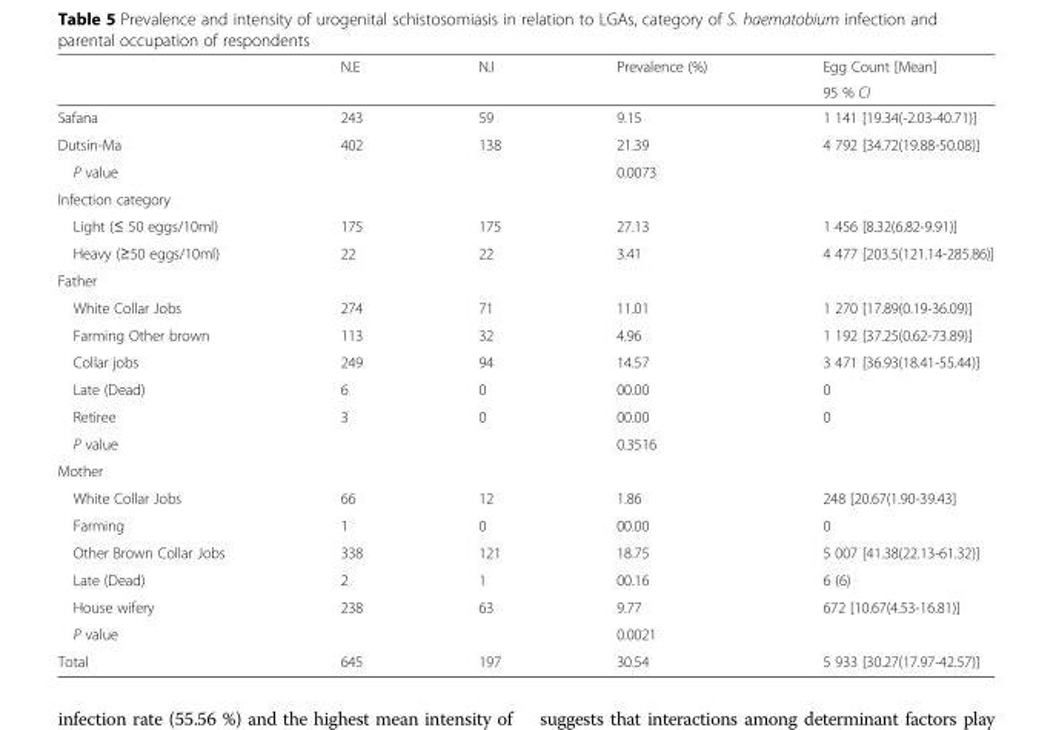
<table><thead><tr><td rowspan="2"></td><td rowspan="2">N.E</td><td rowspan="2">N.I</td><td rowspan="2">Prevalence (%)</td><td rowspan="2">Egg Count [Mean] 95 % CI</td></tr><tr></tr></thead><tbody><tr><td>Safana</td><td>243</td><td>59</td><td>9.15</td><td>1 141 [19.34(-2.03-40.71)]</td></tr><tr><td>Dutsin-Ma</td><td>402</td><td>138</td><td>21.39</td><td>4 792 [34.72(19.88-50.08)]</td></tr><tr><td>P value</td><td></td><td></td><td>0.0073</td><td></td></tr><tr><td colspan="5">Infection category</td></tr><tr><td>Light (≤ 50 eggs/10ml)</td><td>175</td><td>175</td><td>27.13</td><td>1 456 [8.32(6.82-9.91)]</td></tr><tr><td>Heavy (≥50 eggs/10ml)</td><td>22</td><td>22</td><td>3.41</td><td>4 477 [203.5(121.14-285.86)]</td></tr><tr><td colspan="5">Father</td></tr><tr><td>White Collar Jobs</td><td>274</td><td>71</td><td>11.01</td><td>1 270 [17.89(0.19-36.09)]</td></tr><tr><td>Farming Other brown</td><td>113</td><td>32</td><td>4.96</td><td>1 192 [37.25(0.62-73.89)]</td></tr><tr><td>Collar jobs</td><td>249</td><td>94</td><td>14.57</td><td>3 471 [36.93(18.41-55.44)]</td></tr><tr><td>Late (Dead)</td><td>6</td><td>0</td><td>00.00</td><td>0</td></tr><tr><td>Retiree</td><td>3</td><td>0</td><td>00.00</td><td>0</td></tr><tr><td>P value</td><td></td><td></td><td>0.3516</td><td></td></tr><tr><td colspan="5">Mother</td></tr><tr><td>White Collar Jobs</td><td>66</td><td>12</td><td>1.86</td><td>248 [20.67(1.90-39.43]</td></tr><tr><td>Farming</td><td>1</td><td>0</td><td>00.00</td><td>0</td></tr><tr><td>Other Brown Collar Jobs</td><td>338</td><td>121</td><td>18.75</td><td>5 007 [41.38(22.13-61.32)]</td></tr><tr><td>Late (Dead)</td><td>2</td><td>1</td><td>00.16</td><td>6 (6)</td></tr><tr><td>House wifery</td><td>238</td><td>63</td><td>9.77</td><td>672 [10.67(4.53-16.81)]</td></tr><tr><td>P value</td><td></td><td></td><td>0.0021</td><td></td></tr><tr><td>Total</td><td>645</td><td>197</td><td>30.54</td><td>5 933 [30.27(17.97-42.57)]</td></tr></tbody></table>